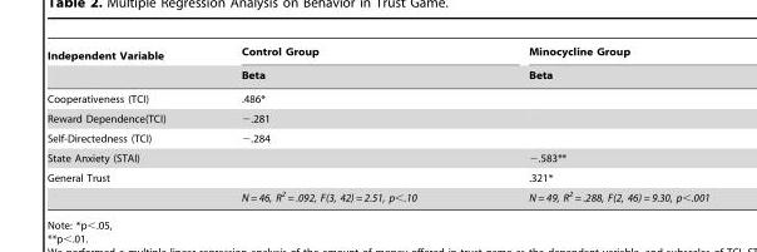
<table><thead><tr><td rowspan="2">Independent Variable</td><td rowspan="2">Control Group Beta</td><td rowspan="2">Minocycline Group Beta</td></tr><tr></tr></thead><tbody><tr><td>Cooperativeness (TCI)</td><td>.486*</td><td></td></tr><tr><td>Reward Dependence(TCI)</td><td>−.281</td><td></td></tr><tr><td>Self-Directedness (TCI)</td><td>−.284</td><td></td></tr><tr><td>State Anxiety (STAI)</td><td></td><td>−.583**</td></tr><tr><td rowspan="2">General Trust</td><td></td><td>.321*</td></tr><tr><td>N = 46, R<sup>2</sup> = .092, F(3, 42) = 2.51, p&lt;.10</td><td>N = 49, R<sup>2</sup> = .288, F(2, 46) = 9.30, p&lt;.001</td></tr></tbody></table>